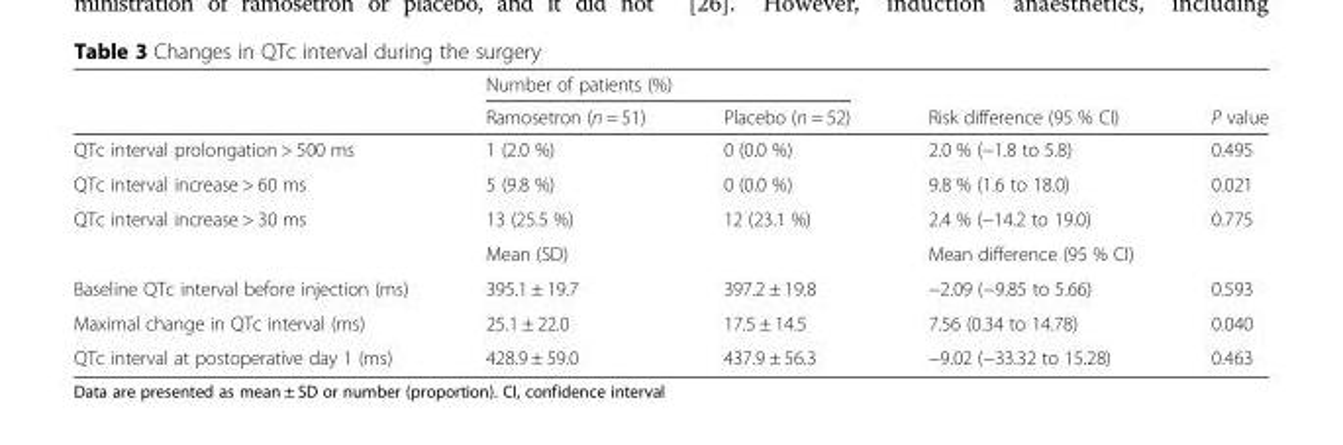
<table><thead><tr><td rowspan="2"></td><td colspan="2">Number of patients (%)</td><td rowspan="2">Risk difference (95 % CI)</td><td rowspan="2">P value</td></tr><tr><td>Ramosetron (n = 51)</td><td>Placebo (n = 52)</td></tr></thead><tbody><tr><td>QTc interval prolongation &gt; 500 ms</td><td>1 (2.0 %)</td><td>0 (0.0 %)</td><td>2.0 % (−1.8 to 5.8)</td><td>0.495</td></tr><tr><td>QTc interval increase &gt; 60 ms</td><td>5 (9.8 %)</td><td>0 (0.0 %)</td><td>9.8 % (1.6 to 18.0)</td><td>0.021</td></tr><tr><td rowspan="2">QTc interval increase &gt; 30 ms</td><td>13 (25.5 %)</td><td>12 (23.1 %)</td><td>2.4 % (−14.2 to 19.0)</td><td>0.775</td></tr><tr><td colspan="2">Mean (SD)</td><td>Mean difference (95 % CI)</td><td></td></tr><tr><td>Baseline QTc interval before injection (ms)</td><td>395.1 ± 19.7</td><td>397.2 ± 19.8</td><td>−2.09 (−9.85 to 5.66)</td><td>0.593</td></tr><tr><td>Maximal change in QTc interval (ms)</td><td>25.1 ± 22.0</td><td>17.5 ± 14.5</td><td>7.56 (0.34 to 14.78)</td><td>0.040</td></tr><tr><td>QTc interval at postoperative day 1 (ms)</td><td>428.9 ± 59.0</td><td>437.9 ± 56.3</td><td>−9.02 (−33.32 to 15.28)</td><td>0.463</td></tr></tbody></table>